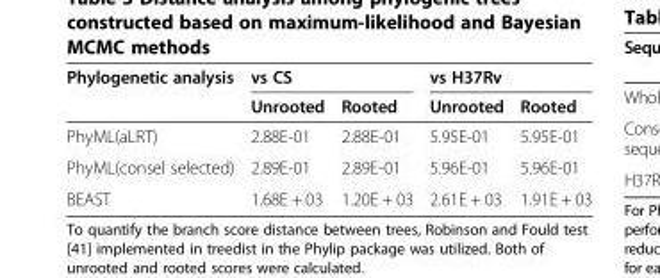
<table><thead><tr><td rowspan="2">Phylogenetic analysis</td><td colspan="2">vs CS</td><td colspan="2">vs H37Rv</td></tr><tr><td>Unrooted</td><td>Rooted</td><td>Unrooted</td><td>Rooted</td></tr></thead><tbody><tr><td>PhyML(aLRT)</td><td>2.88E-01</td><td>2.88E-01</td><td>5.95E-01</td><td>5.95E-01</td></tr><tr><td>PhyML(consel selected)</td><td>2.89E-01</td><td>2.89E-01</td><td>5.96E-01</td><td>5.96E-01</td></tr><tr><td>BEAST</td><td>1.68E + 03</td><td>1.20E + 03</td><td>2.61E + 03</td><td>1.91E + 03</td></tr></tbody></table>